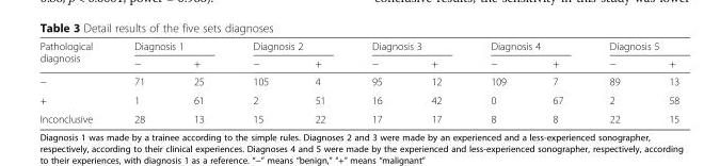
<table><thead><tr><td rowspan="2">Pathological diagnosis</td><td colspan="2">Diagnosis 1</td><td colspan="2">Diagnosis 2</td><td colspan="2">Diagnosis 3</td><td colspan="2">Diagnosis 4</td><td colspan="2">Diagnosis 5</td></tr><tr><td>−</td><td>+</td><td>−</td><td>+</td><td>−</td><td>+</td><td>−</td><td>+</td><td>−</td><td>+</td></tr></thead><tbody><tr><td>−</td><td>71</td><td>25</td><td>105</td><td>4</td><td>95</td><td>12</td><td>109</td><td>7</td><td>89</td><td>13</td></tr><tr><td>+</td><td>1</td><td>61</td><td>2</td><td>51</td><td>16</td><td>42</td><td>0</td><td>67</td><td>2</td><td>58</td></tr><tr><td>Inconclusive</td><td>28</td><td>13</td><td>15</td><td>22</td><td>17</td><td>17</td><td>8</td><td>8</td><td>22</td><td>15</td></tr></tbody></table>